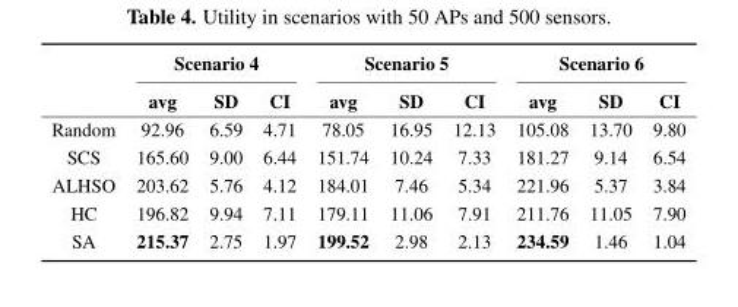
<table><thead><tr><td rowspan="2"></td><td colspan="3">Scenario 4</td><td colspan="3">Scenario 5</td><td colspan="3">Scenario 6</td></tr><tr><td>avg</td><td>SD</td><td>CI</td><td>avg</td><td>SD</td><td>CI</td><td>avg</td><td>SD</td><td>CI</td></tr></thead><tbody><tr><td>Random</td><td>92.96</td><td>6.59</td><td>4.71</td><td>78.05</td><td>16.95</td><td>12.13</td><td>105.08</td><td>13.70</td><td>9.80</td></tr><tr><td>SCS</td><td>165.60</td><td>9.00</td><td>6.44</td><td>151.74</td><td>10.24</td><td>7.33</td><td>181.27</td><td>9.14</td><td>6.54</td></tr><tr><td>ALHSO</td><td>203.62</td><td>5.76</td><td>4.12</td><td>184.01</td><td>7.46</td><td>5.34</td><td>221.96</td><td>5.37</td><td>3.84</td></tr><tr><td>HC</td><td>196.82</td><td>9.94</td><td>7.11</td><td>179.11</td><td>11.06</td><td>7.91</td><td>211.76</td><td>11.05</td><td>7.90</td></tr><tr><td>SA</td><td>215.37</td><td>2.75</td><td>1.97</td><td>199.52</td><td>2.98</td><td>2.13</td><td>234.59</td><td>1.46</td><td>1.04</td></tr></tbody></table>